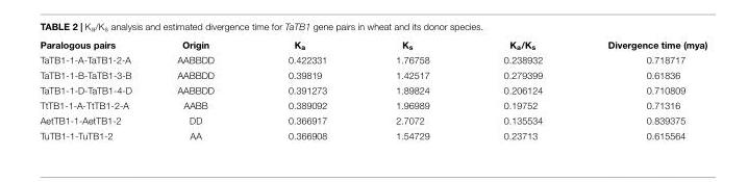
<table><thead><tr><td>Paralogous pairs</td><td>Origin</td><td>K<sub>a</sub></td><td>K<sub>s</sub></td><td>K<sub>a</sub>/K<sub>s</sub></td><td>Divergence time (mya)</td></tr></thead><tbody><tr><td>TaTB1-1-A-TaTB1-2-A</td><td>AABBDD</td><td>0.422331</td><td>1.76758</td><td>0.238932</td><td>0.718717</td></tr><tr><td>TaTB1-1-B-TaTB1-3-B</td><td>AABBDD</td><td>0.39819</td><td>1.42517</td><td>0.279399</td><td>0.61836</td></tr><tr><td>TaTB1-1-D-TaTB1-4-D</td><td>AABBDD</td><td>0.391273</td><td>1.89824</td><td>0.206124</td><td>0.710809</td></tr><tr><td>TtTB1-1-A-TtTB1-2-A</td><td>AABB</td><td>0.389092</td><td>1.96989</td><td>0.19752</td><td>0.71316</td></tr><tr><td>AetTB1-1-AetTB1-2</td><td>DD</td><td>0.366917</td><td>2.7072</td><td>0.135534</td><td>0.839375</td></tr><tr><td>TuTB1-1-TuTB1-2</td><td>AA</td><td>0.366908</td><td>1.54729</td><td>0.23713</td><td>0.615564</td></tr></tbody></table>